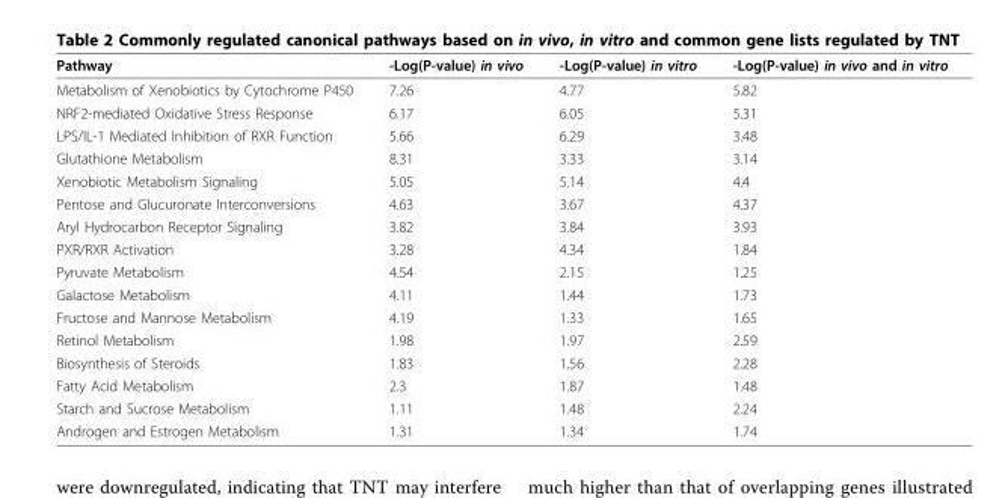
<table><thead><tr><td>Pathway</td><td>-Log(P-value) in vivo</td><td>-Log(P-value) in vitro</td><td>-Log(P-value) in vivo and in vitro</td></tr></thead><tbody><tr><td>Metabolism of Xenobiotics by Cytochrome P450</td><td>7.26</td><td>4.77</td><td>5.82</td></tr><tr><td>NRF2-mediated Oxidative Stress Response</td><td>6.17</td><td>6.05</td><td>5.31</td></tr><tr><td>LPS/IL-1 Mediated Inhibition of RXR Function</td><td>5.66</td><td>6.29</td><td>3.48</td></tr><tr><td>Glutathione Metabolism</td><td>8.31</td><td>3.33</td><td>3.14</td></tr><tr><td>Xenobiotic Metabolism Signaling</td><td>5.05</td><td>5.14</td><td>4.4</td></tr><tr><td>Pentose and Glucuronate Interconversions</td><td>4.63</td><td>3.67</td><td>4.37</td></tr><tr><td>Aryl Hydrocarbon Receptor Signaling</td><td>3.82</td><td>3.84</td><td>3.93</td></tr><tr><td>PXR/RXR Activation</td><td>3.28</td><td>4.34</td><td>1.84</td></tr><tr><td>Pyruvate Metabolism</td><td>4.54</td><td>2.15</td><td>1.25</td></tr><tr><td>Galactose Metabolism</td><td>4.11</td><td>1.44</td><td>1.73</td></tr><tr><td>Fructose and Mannose Metabolism</td><td>4.19</td><td>1.33</td><td>1.65</td></tr><tr><td>Retinol Metabolism</td><td>1.98</td><td>1.97</td><td>2.59</td></tr><tr><td>Biosynthesis of Steroids</td><td>1.83</td><td>1.56</td><td>2.28</td></tr><tr><td>Fatty Acid Metabolism</td><td>2.3</td><td>1.87</td><td>1.48</td></tr><tr><td>Starch and Sucrose Metabolism</td><td>1.11</td><td>1.48</td><td>2.24</td></tr><tr><td>Androgen and Estrogen Metabolism</td><td>1.31</td><td>1.34</td><td>1.74</td></tr></tbody></table>